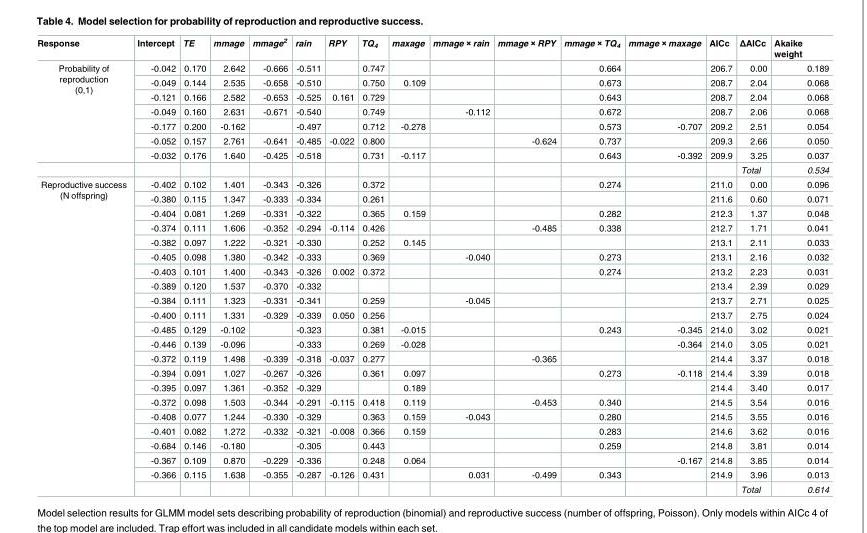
<table><thead><tr><td>Response</td><td>Intercept</td><td>TE</td><td>mmage</td><td>mmage<sup>2</sup></td><td>rain</td><td>RPY</td><td>TQ<sub>4</sub></td><td>maxage</td><td>mmage × rain</td><td>mmage × RPY</td><td>mmage × TQ<sub>4</sub></td><td>mmage × maxage</td><td>AICc</td><td>ΔAICc</td><td>Akaike weight</td></tr></thead><tbody><tr><td rowspan="8">Probability of reproduction (0,1)</td><td>-0.042</td><td>0.170</td><td>2.642</td><td>-0.666</td><td>-0.511</td><td></td><td>0.747</td><td></td><td></td><td></td><td>0.664</td><td></td><td>206.7</td><td>0.00</td><td>0.189</td></tr><tr><td>-0.049</td><td>0.144</td><td>2.535</td><td>-0.658</td><td>-0.510</td><td></td><td>0.750</td><td>0.109</td><td></td><td></td><td>0.673</td><td></td><td>208.7</td><td>2.04</td><td>0.068</td></tr><tr><td>-0.121</td><td>0.166</td><td>2.582</td><td>-0.653</td><td>-0.525</td><td>0.161</td><td>0.729</td><td></td><td></td><td></td><td>0.643</td><td></td><td>208.7</td><td>2.04</td><td>0.068</td></tr><tr><td>-0.049</td><td>0.160</td><td>2.631</td><td>-0.671</td><td>-0.540</td><td></td><td>0.749</td><td></td><td>-0.112</td><td></td><td>0.672</td><td></td><td>208.7</td><td>2.06</td><td>0.068</td></tr><tr><td>-0.177</td><td>0.200</td><td>-0.162</td><td></td><td>-0.497</td><td></td><td>0.712</td><td>-0.278</td><td></td><td></td><td>0.573</td><td>-0.707</td><td>209.2</td><td>2.51</td><td>0.054</td></tr><tr><td>-0.052</td><td>0.157</td><td>2.761</td><td>-0.641</td><td>-0.485</td><td>-0.022</td><td>0.800</td><td></td><td></td><td>-0.624</td><td>0.737</td><td></td><td>209.3</td><td>2.66</td><td>0.050</td></tr><tr><td>-0.032</td><td>0.176</td><td>1.640</td><td>-0.425</td><td>-0.518</td><td></td><td>0.731</td><td>-0.117</td><td></td><td></td><td>0.643</td><td>-0.392</td><td>209.9</td><td>3.25</td><td>0.037</td></tr><tr><td></td><td></td><td></td><td></td><td></td><td></td><td></td><td></td><td></td><td></td><td></td><td></td><td></td><td>Total</td><td>0.534</td></tr><tr><td rowspan="22">Reproductive success (N offspring)</td><td>-0.402</td><td>0.102</td><td>1.401</td><td>-0.343</td><td>-0.326</td><td></td><td>0.372</td><td></td><td></td><td></td><td>0.274</td><td></td><td>211.0</td><td>0.00</td><td>0.096</td></tr><tr><td>-0.380</td><td>0.115</td><td>1.347</td><td>-0.333</td><td>-0.334</td><td></td><td>0.261</td><td></td><td></td><td></td><td></td><td></td><td>211.6</td><td>0.60</td><td>0.071</td></tr><tr><td>-0.404</td><td>0.081</td><td>1.269</td><td>-0.331</td><td>-0.322</td><td></td><td>0.365</td><td>0.159</td><td></td><td></td><td>0.282</td><td></td><td>212.3</td><td>1.37</td><td>0.048</td></tr><tr><td>-0.374</td><td>0.111</td><td>1.606</td><td>-0.352</td><td>-0.294</td><td>-0.114</td><td>0.426</td><td></td><td></td><td>-0.485</td><td>0.338</td><td></td><td>212.7</td><td>1.71</td><td>0.041</td></tr><tr><td>-0.382</td><td>0.097</td><td>1.222</td><td>-0.321</td><td>-0.330</td><td></td><td>0.252</td><td>0.145</td><td></td><td></td><td></td><td></td><td>213.1</td><td>2.11</td><td>0.033</td></tr><tr><td>-0.405</td><td>0.098</td><td>1.380</td><td>-0.342</td><td>-0.333</td><td></td><td>0.369</td><td></td><td>-0.040</td><td></td><td>0.273</td><td></td><td>213.1</td><td>2.16</td><td>0.032</td></tr><tr><td>-0.403</td><td>0.101</td><td>1.400</td><td>-0.343</td><td>-0.326</td><td>0.002</td><td>0.372</td><td></td><td></td><td></td><td>0.274</td><td></td><td>213.2</td><td>2.23</td><td>0.031</td></tr><tr><td>-0.389</td><td>0.120</td><td>1.537</td><td>-0.370</td><td>-0.332</td><td></td><td></td><td></td><td></td><td></td><td></td><td></td><td>213.4</td><td>2.39</td><td>0.029</td></tr><tr><td>-0.384</td><td>0.111</td><td>1.323</td><td>-0.331</td><td>-0.341</td><td></td><td>0.259</td><td></td><td>-0.045</td><td></td><td></td><td></td><td>213.7</td><td>2.71</td><td>0.025</td></tr><tr><td>-0.400</td><td>0.111</td><td>1.331</td><td>-0.329</td><td>-0.339</td><td>0.050</td><td>0.256</td><td></td><td></td><td></td><td></td><td></td><td>213.7</td><td>2.75</td><td>0.024</td></tr><tr><td>-0.485</td><td>0.129</td><td>-0.102</td><td></td><td>-0.323</td><td></td><td>0.381</td><td>-0.015</td><td></td><td></td><td>0.243</td><td>-0.345</td><td>214.0</td><td>3.02</td><td>0.021</td></tr><tr><td>-0.446</td><td>0.139</td><td>-0.096</td><td></td><td>-0.333</td><td></td><td>0.269</td><td>-0.028</td><td></td><td></td><td></td><td>-0.364</td><td>214.0</td><td>3.05</td><td>0.021</td></tr><tr><td>-0.372</td><td>0.119</td><td>1.498</td><td>-0.339</td><td>-0.318</td><td>-0.037</td><td>0.277</td><td></td><td></td><td>-0.365</td><td></td><td></td><td>214.4</td><td>3.37</td><td>0.018</td></tr><tr><td>-0.394</td><td>0.091</td><td>1.027</td><td>-0.267</td><td>-0.326</td><td></td><td>0.361</td><td>0.097</td><td></td><td></td><td>0.273</td><td>-0.118</td><td>214.4</td><td>3.39</td><td>0.018</td></tr><tr><td>-0.395</td><td>0.097</td><td>1.361</td><td>-0.352</td><td>-0.329</td><td></td><td></td><td>0.189</td><td></td><td></td><td></td><td></td><td>214.4</td><td>3.40</td><td>0.017</td></tr><tr><td>-0.372</td><td>0.098</td><td>1.503</td><td>-0.344</td><td>-0.291</td><td>-0.115</td><td>0.418</td><td>0.119</td><td></td><td>-0.453</td><td>0.340</td><td></td><td>214.5</td><td>3.54</td><td>0.016</td></tr><tr><td>-0.408</td><td>0.077</td><td>1.244</td><td>-0.330</td><td>-0.329</td><td></td><td>0.363</td><td>0.159</td><td>-0.043</td><td></td><td>0.280</td><td></td><td>214.5</td><td>3.55</td><td>0.016</td></tr><tr><td>-0.401</td><td>0.082</td><td>1.272</td><td>-0.332</td><td>-0.321</td><td>-0.008</td><td>0.366</td><td>0.159</td><td></td><td></td><td>0.283</td><td></td><td>214.6</td><td>3.62</td><td>0.016</td></tr><tr><td>-0.684</td><td>0.146</td><td>-0.180</td><td></td><td>-0.305</td><td></td><td>0.443</td><td></td><td></td><td></td><td>0.259</td><td></td><td>214.8</td><td>3.81</td><td>0.014</td></tr><tr><td>-0.367</td><td>0.109</td><td>0.870</td><td>-0.229</td><td>-0.336</td><td></td><td>0.248</td><td>0.064</td><td></td><td></td><td></td><td>-0.167</td><td>214.8</td><td>3.85</td><td>0.014</td></tr><tr><td>-0.366</td><td>0.115</td><td>1.638</td><td>-0.355</td><td>-0.287</td><td>-0.126</td><td>0.431</td><td></td><td>0.031</td><td>-0.499</td><td>0.343</td><td></td><td>214.9</td><td>3.96</td><td>0.013</td></tr><tr><td></td><td></td><td></td><td></td><td></td><td></td><td></td><td></td><td></td><td></td><td></td><td></td><td></td><td>Total</td><td>0.614</td></tr></tbody></table>